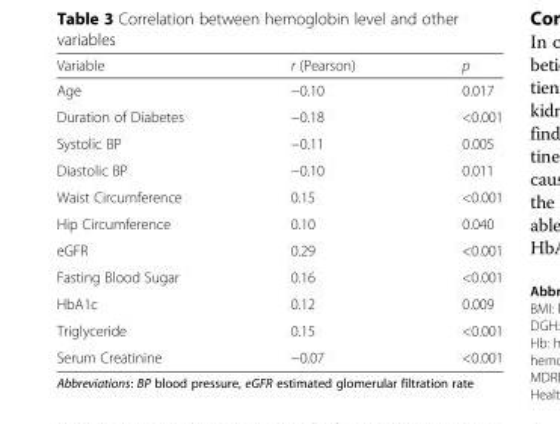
<table><thead><tr><td>Variable</td><td>r (Pearson)</td><td>p</td></tr></thead><tbody><tr><td>Age</td><td>−0.10</td><td>0.017</td></tr><tr><td>Duration of Diabetes</td><td>−0.18</td><td>&lt;0.001</td></tr><tr><td>Systolic BP</td><td>−0.11</td><td>0.005</td></tr><tr><td>Diastolic BP</td><td>−0.10</td><td>0.011</td></tr><tr><td>Waist Circumference</td><td>0.15</td><td>&lt;0.001</td></tr><tr><td>Hip Circumference</td><td>0.10</td><td>0.040</td></tr><tr><td>eGFR</td><td>0.29</td><td>&lt;0.001</td></tr><tr><td>Fasting Blood Sugar</td><td>0.16</td><td>&lt;0.001</td></tr><tr><td>HbA1c</td><td>0.12</td><td>0.009</td></tr><tr><td>Triglyceride</td><td>0.15</td><td>&lt;0.001</td></tr><tr><td>Serum Creatinine</td><td>−0.07</td><td>&lt;0.001</td></tr></tbody></table>